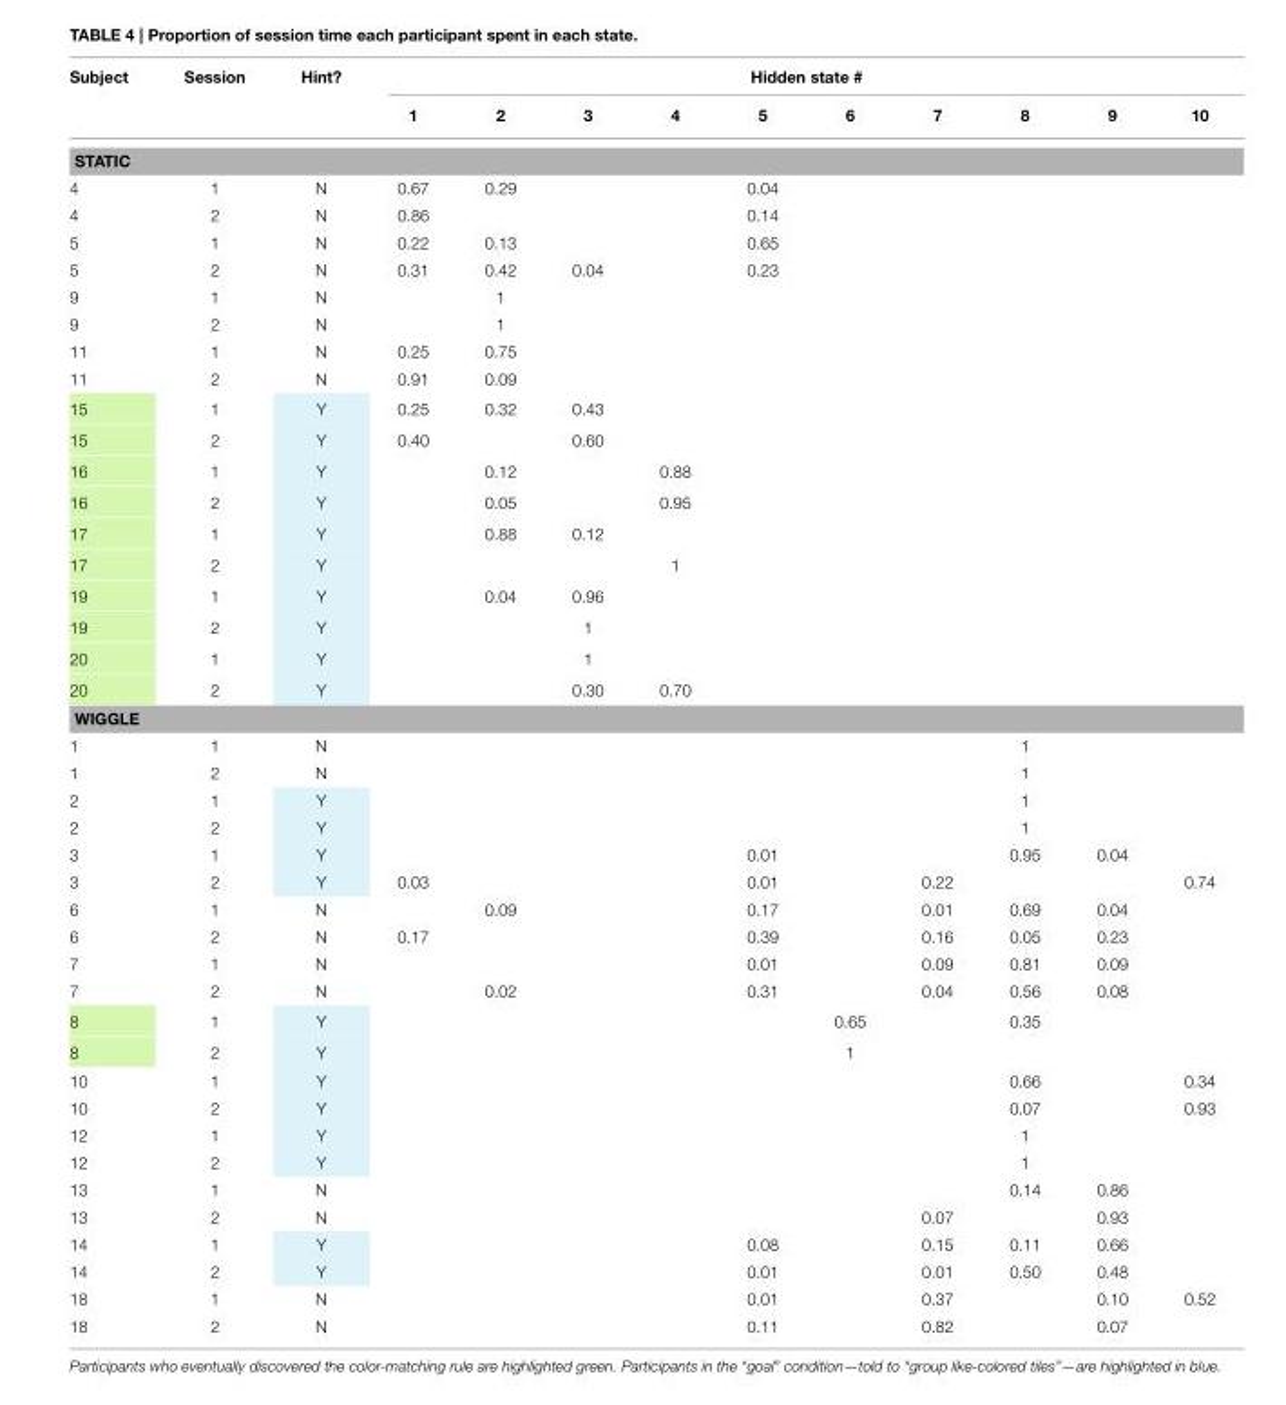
<table><thead><tr><td rowspan="2">Subject</td><td rowspan="2">Session</td><td rowspan="2">Hint?</td><td colspan="10">Hidden state #</td></tr><tr><td>1</td><td>2</td><td>3</td><td>4</td><td>5</td><td>6</td><td>7</td><td>8</td><td>9</td><td>10</td></tr></thead><tbody><tr><td colspan="13">STATIC</td></tr><tr><td>4</td><td>1</td><td>N</td><td>0.67</td><td>0.29</td><td></td><td></td><td>0.04</td><td></td><td></td><td></td><td></td><td></td></tr><tr><td>4</td><td>2</td><td>N</td><td>0.86</td><td></td><td></td><td></td><td>0.14</td><td></td><td></td><td></td><td></td><td></td></tr><tr><td>5</td><td>1</td><td>N</td><td>0.22</td><td>0.13</td><td></td><td></td><td>0.65</td><td></td><td></td><td></td><td></td><td></td></tr><tr><td>5</td><td>2</td><td>N</td><td>0.31</td><td>0.42</td><td>0.04</td><td></td><td>0.23</td><td></td><td></td><td></td><td></td><td></td></tr><tr><td>9</td><td>1</td><td>N</td><td></td><td>1</td><td></td><td></td><td></td><td></td><td></td><td></td><td></td><td></td></tr><tr><td>9</td><td>2</td><td>N</td><td></td><td>1</td><td></td><td></td><td></td><td></td><td></td><td></td><td></td><td></td></tr><tr><td>11</td><td>1</td><td>N</td><td>0.25</td><td>0.75</td><td></td><td></td><td></td><td></td><td></td><td></td><td></td><td></td></tr><tr><td>11</td><td>2</td><td>N</td><td>0.91</td><td>0.09</td><td></td><td></td><td></td><td></td><td></td><td></td><td></td><td></td></tr><tr><td>15</td><td>1</td><td>Y</td><td>0.25</td><td>0.32</td><td>0.43</td><td></td><td></td><td></td><td></td><td></td><td></td><td></td></tr><tr><td>15</td><td>2</td><td>Y</td><td>0.40</td><td></td><td>0.60</td><td></td><td></td><td></td><td></td><td></td><td></td><td></td></tr><tr><td>16</td><td>1</td><td>Y</td><td></td><td>0.12</td><td></td><td>0.88</td><td></td><td></td><td></td><td></td><td></td><td></td></tr><tr><td>16</td><td>2</td><td>Y</td><td></td><td>0.05</td><td></td><td>0.95</td><td></td><td></td><td></td><td></td><td></td><td></td></tr><tr><td>17</td><td>1</td><td>Y</td><td></td><td>0.88</td><td>0.12</td><td></td><td></td><td></td><td></td><td></td><td></td><td></td></tr><tr><td>17</td><td>2</td><td>Y</td><td></td><td></td><td></td><td>1</td><td></td><td></td><td></td><td></td><td></td><td></td></tr><tr><td>19</td><td>1</td><td>Y</td><td></td><td>0.04</td><td>0.96</td><td></td><td></td><td></td><td></td><td></td><td></td><td></td></tr><tr><td>19</td><td>2</td><td>Y</td><td></td><td></td><td>1</td><td></td><td></td><td></td><td></td><td></td><td></td><td></td></tr><tr><td>20</td><td>1</td><td>Y</td><td></td><td></td><td>1</td><td></td><td></td><td></td><td></td><td></td><td></td><td></td></tr><tr><td>20</td><td>2</td><td>Y</td><td></td><td></td><td>0.30</td><td>0.70</td><td></td><td></td><td></td><td></td><td></td><td></td></tr><tr><td colspan="13">WIGGLE</td></tr><tr><td>1</td><td>1</td><td>N</td><td></td><td></td><td></td><td></td><td></td><td></td><td></td><td>1</td><td></td><td></td></tr><tr><td>1</td><td>2</td><td>N</td><td></td><td></td><td></td><td></td><td></td><td></td><td></td><td>1</td><td></td><td></td></tr><tr><td>2</td><td>1</td><td>Y</td><td></td><td></td><td></td><td></td><td></td><td></td><td></td><td>1</td><td></td><td></td></tr><tr><td>2</td><td>2</td><td>Y</td><td></td><td></td><td></td><td></td><td></td><td></td><td></td><td>1</td><td></td><td></td></tr><tr><td>3</td><td>1</td><td>Y</td><td></td><td></td><td></td><td></td><td>0.01</td><td></td><td></td><td>0.95</td><td>0.04</td><td></td></tr><tr><td>3</td><td>2</td><td>Y</td><td>0.03</td><td></td><td></td><td></td><td>0.01</td><td></td><td>0.22</td><td></td><td></td><td>0.74</td></tr><tr><td>6</td><td>1</td><td>N</td><td></td><td>0.09</td><td></td><td></td><td>0.17</td><td></td><td>0.01</td><td>0.69</td><td>0.04</td><td></td></tr><tr><td>6</td><td>2</td><td>N</td><td>0.17</td><td></td><td></td><td></td><td>0.39</td><td></td><td>0.16</td><td>0.05</td><td>0.23</td><td></td></tr><tr><td>7</td><td>1</td><td>N</td><td></td><td></td><td></td><td></td><td>0.01</td><td></td><td>0.09</td><td>0.81</td><td>0.09</td><td></td></tr><tr><td>7</td><td>2</td><td>N</td><td></td><td>0.02</td><td></td><td></td><td>0.31</td><td></td><td>0.04</td><td>0.56</td><td>0.08</td><td></td></tr><tr><td>8</td><td>1</td><td>Y</td><td></td><td></td><td></td><td></td><td></td><td>0.65</td><td></td><td>0.35</td><td></td><td></td></tr><tr><td>8</td><td>2</td><td>Y</td><td></td><td></td><td></td><td></td><td></td><td>1</td><td></td><td></td><td></td><td></td></tr><tr><td>10</td><td>1</td><td>Y</td><td></td><td></td><td></td><td></td><td></td><td></td><td></td><td>0.66</td><td></td><td>0.34</td></tr><tr><td>10</td><td>2</td><td>Y</td><td></td><td></td><td></td><td></td><td></td><td></td><td></td><td>0.07</td><td></td><td>0.93</td></tr><tr><td>12</td><td>1</td><td>Y</td><td></td><td></td><td></td><td></td><td></td><td></td><td></td><td>1</td><td></td><td></td></tr><tr><td>12</td><td>2</td><td>Y</td><td></td><td></td><td></td><td></td><td></td><td></td><td></td><td>1</td><td></td><td></td></tr><tr><td>13</td><td>1</td><td>N</td><td></td><td></td><td></td><td></td><td></td><td></td><td></td><td>0.14</td><td>0.86</td><td></td></tr><tr><td>13</td><td>2</td><td>N</td><td></td><td></td><td></td><td></td><td></td><td></td><td>0.07</td><td></td><td>0.93</td><td></td></tr><tr><td>14</td><td>1</td><td>Y</td><td></td><td></td><td></td><td></td><td>0.08</td><td></td><td>0.15</td><td>0.11</td><td>0.66</td><td></td></tr><tr><td>14</td><td>2</td><td>Y</td><td></td><td></td><td></td><td></td><td>0.01</td><td></td><td>0.01</td><td>0.50</td><td>0.48</td><td></td></tr><tr><td>18</td><td>1</td><td>N</td><td></td><td></td><td></td><td></td><td>0.01</td><td></td><td>0.37</td><td></td><td>0.10</td><td>0.52</td></tr><tr><td>18</td><td>2</td><td>N</td><td></td><td></td><td></td><td></td><td>0.11</td><td></td><td>0.82</td><td></td><td>0.07</td><td></td></tr></tbody></table>